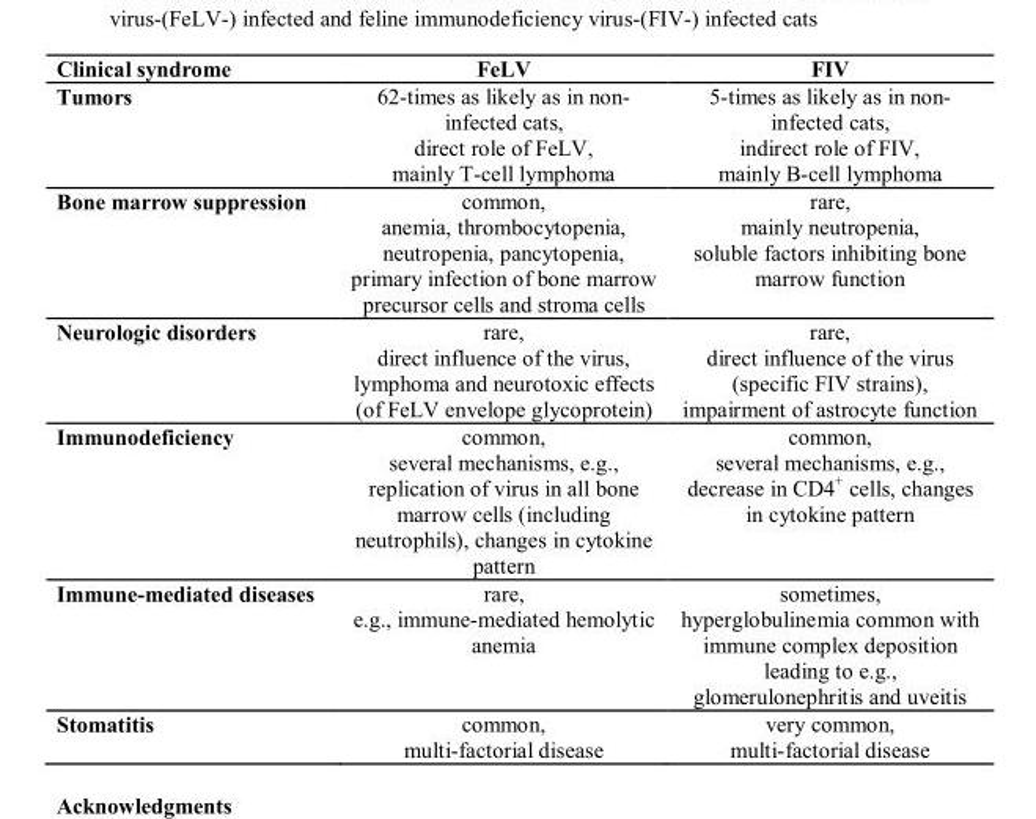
<table><thead><tr><td>Clinical syndrome</td><td>FeLV</td><td>FIV</td></tr></thead><tbody><tr><td>Tumors</td><td>62-times as likely as in non- infected cats, direct role of FeLV, mainly T-cell lymphoma</td><td>5-times as likely as in non- infected cats, indirect role of FIV, mainly B-cell lymphoma</td></tr><tr><td>Bone marrow suppression</td><td>common, anemia, thrombocytopenia, neutropenia, pancytopenia, primary infection of bone marrow precursor cells and stroma cells</td><td>rare, mainly neutropenia, soluble factors inhibiting bone marrow function</td></tr><tr><td>Neurologic disorders</td><td>rare, direct influence of the virus, lymphoma and neurotoxic effects (of FeLV envelope glycoprotein)</td><td>rare, direct influence of the virus (specific FIV strains), impairment of astrocyte function</td></tr><tr><td>Immunodeficiency</td><td>common, several mechanisms, e.g., replication of virus in all bone marrow cells (including neutrophils), changes in cytokine pattern</td><td>common, several mechanisms, e.g., decrease in CD4<sup>+</sup> cells, changes in cytokine pattern</td></tr><tr><td>Immune-mediated diseases</td><td>rare, e.g., immune-mediated hemolytic anemia</td><td>sometimes, hyperglobulinemia common with immune complex deposition leading to e.g., glomerulonephritis and uveitis</td></tr><tr><td>Stomatitis</td><td>common, multi-factorial disease</td><td>very common, multi-factorial disease</td></tr></tbody></table>